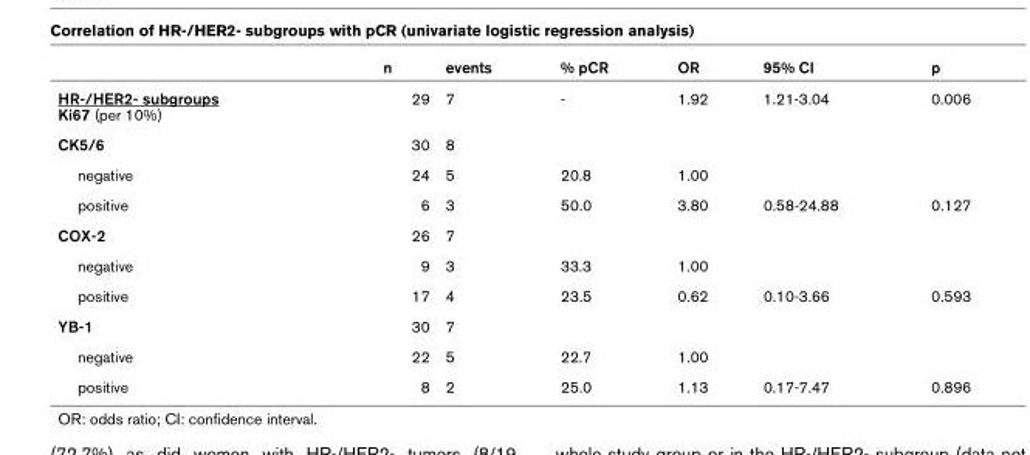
<table><thead><tr><td></td><td>n</td><td>events</td><td>% pCR</td><td>OR</td><td>95% CI</td><td>p</td></tr></thead><tbody><tr><td>HR-/HER2- subgroups Ki67 (per 10%)</td><td>29</td><td>7</td><td>-</td><td>1.92</td><td>1.21-3.04</td><td>0.006</td></tr><tr><td>CK5/6</td><td>30</td><td>8</td><td></td><td></td><td></td><td></td></tr><tr><td>negative</td><td>24</td><td>5</td><td>20.8</td><td>1.00</td><td></td><td></td></tr><tr><td>positive</td><td>6</td><td>3</td><td>50.0</td><td>3.80</td><td>0.58-24.88</td><td>0.127</td></tr><tr><td>COX-2</td><td>26</td><td>7</td><td></td><td></td><td></td><td></td></tr><tr><td>negative</td><td>9</td><td>3</td><td>33.3</td><td>1.00</td><td></td><td></td></tr><tr><td>positive</td><td>17</td><td>4</td><td>23.5</td><td>0.62</td><td>0.10-3.66</td><td>0.593</td></tr><tr><td>YB-1</td><td>30</td><td>7</td><td></td><td></td><td></td><td></td></tr><tr><td>negative</td><td>22</td><td>5</td><td>22.7</td><td>1.00</td><td></td><td></td></tr><tr><td>positive</td><td>8</td><td>2</td><td>25.0</td><td>1.13</td><td>0.17-7.47</td><td>0.896</td></tr></tbody></table>